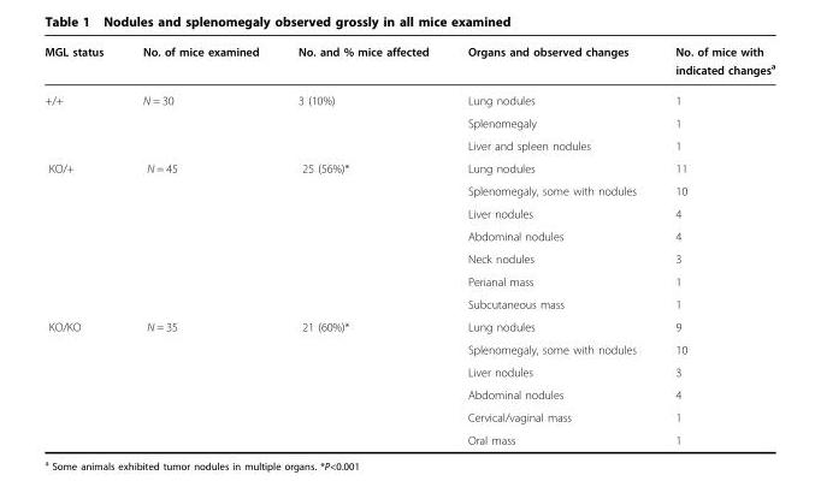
<table><thead><tr><td>MGL status</td><td>No. of mice examined</td><td>No. and % mice affected</td><td>Organs and observed changes</td><td>No. of mice with indicated changes<sup>a</sup></td></tr></thead><tbody><tr><td rowspan="3">+/+</td><td>N = 30</td><td>3 (10%)</td><td>Lung nodules</td><td>1</td></tr><tr><td></td><td></td><td>Splenomegaly</td><td>1</td></tr><tr><td></td><td></td><td>Liver and spleen nodules</td><td>1</td></tr><tr><td rowspan="7">KO/+</td><td>N = 45</td><td>25 (56%)*</td><td>Lung nodules</td><td>11</td></tr><tr><td></td><td></td><td>Splenomegaly, some with nodules</td><td>10</td></tr><tr><td></td><td></td><td>Liver nodules</td><td>4</td></tr><tr><td></td><td></td><td>Abdominal nodules</td><td>4</td></tr><tr><td></td><td></td><td>Neck nodules</td><td>3</td></tr><tr><td></td><td></td><td>Perianal mass</td><td>1</td></tr><tr><td></td><td></td><td>Subcutaneous mass</td><td>1</td></tr><tr><td rowspan="6">KO/KO</td><td>N = 35</td><td>21 (60%)*</td><td>Lung nodules</td><td>9</td></tr><tr><td></td><td></td><td>Splenomegaly, some with nodules</td><td>10</td></tr><tr><td></td><td></td><td>Liver nodules</td><td>3</td></tr><tr><td></td><td></td><td>Abdominal nodules</td><td>4</td></tr><tr><td></td><td></td><td>Cervical/vaginal mass</td><td>1</td></tr><tr><td></td><td></td><td>Oral mass</td><td>1</td></tr></tbody></table>